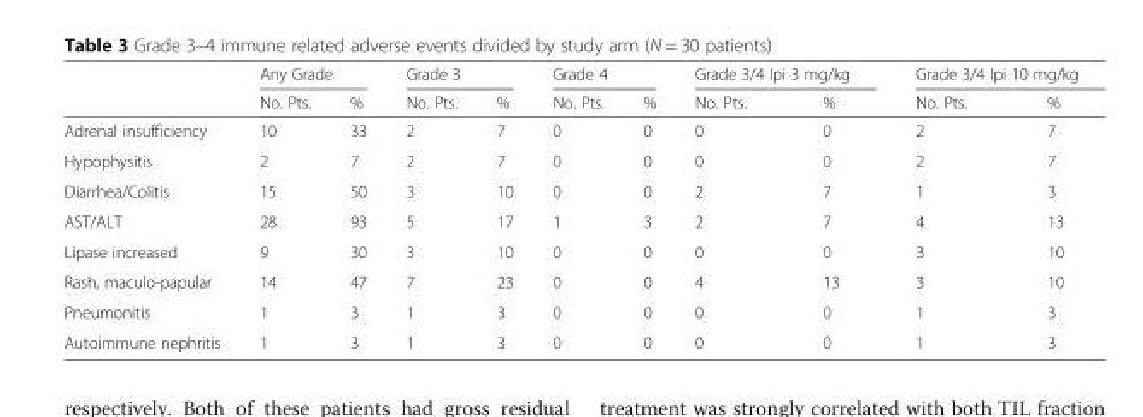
<table><thead><tr><td rowspan="2"></td><td colspan="2">Any Grade</td><td colspan="2">Grade 3</td><td colspan="2">Grade 4</td><td colspan="2">Grade 3/4 Ipi 3 mg/kg</td><td colspan="2">Grade 3/4 Ipi 10 mg/kg</td></tr><tr><td>No. Pts.</td><td>%</td><td>No. Pts.</td><td>%</td><td>No. Pts.</td><td>%</td><td>No. Pts.</td><td>%</td><td>No. Pts.</td><td>%</td></tr></thead><tbody><tr><td>Adrenal insufficiency</td><td>10</td><td>33</td><td>2</td><td>7</td><td>0</td><td>0</td><td>0</td><td>0</td><td>2</td><td>7</td></tr><tr><td>Hypophysitis</td><td>2</td><td>7</td><td>2</td><td>7</td><td>0</td><td>0</td><td>0</td><td>0</td><td>2</td><td>7</td></tr><tr><td>Diarrhea/Colitis</td><td>15</td><td>50</td><td>3</td><td>10</td><td>0</td><td>0</td><td>2</td><td>7</td><td>1</td><td>3</td></tr><tr><td>AST/ALT</td><td>28</td><td>93</td><td>5</td><td>17</td><td>1</td><td>3</td><td>2</td><td>7</td><td>4</td><td>13</td></tr><tr><td>Lipase increased</td><td>9</td><td>30</td><td>3</td><td>10</td><td>0</td><td>0</td><td>0</td><td>0</td><td>3</td><td>10</td></tr><tr><td>Rash, maculo-papular</td><td>14</td><td>47</td><td>7</td><td>23</td><td>0</td><td>0</td><td>4</td><td>13</td><td>3</td><td>10</td></tr><tr><td>Pneumonitis</td><td>1</td><td>3</td><td>1</td><td>3</td><td>0</td><td>0</td><td>0</td><td>0</td><td>1</td><td>3</td></tr><tr><td>Autoimmune nephritis</td><td>1</td><td>3</td><td>1</td><td>3</td><td>0</td><td>0</td><td>0</td><td>0</td><td>1</td><td>3</td></tr></tbody></table>